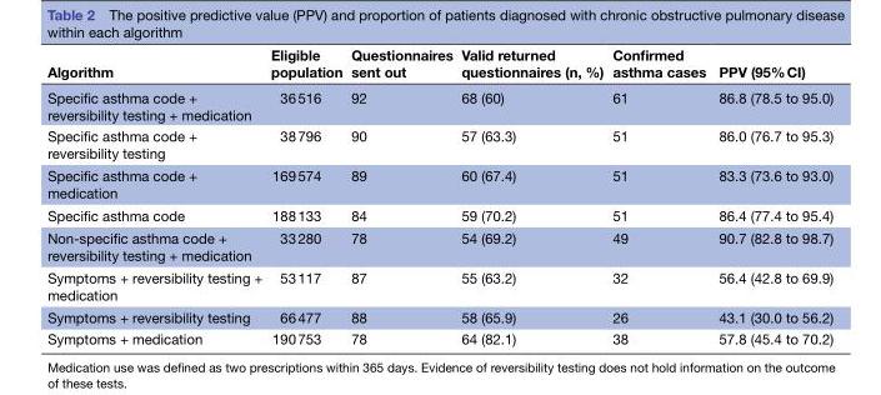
<table><thead><tr><td>Algorithm</td><td>Eligible population</td><td>Questionnaires sent out</td><td>Valid returned questionnaires (n, %)</td><td>Confirmed asthma cases</td><td>PPV (95% CI)</td></tr></thead><tbody><tr><td>Specific asthma code + reversibility testing + medication</td><td>36 516</td><td>92</td><td>68 (60)</td><td>61</td><td>86.8 (78.5 to 95.0)</td></tr><tr><td>Specific asthma code + reversibility testing</td><td>38 796</td><td>90</td><td>57 (63.3)</td><td>51</td><td>86.0 (76.7 to 95.3)</td></tr><tr><td>Specific asthma code + medication</td><td>169 574</td><td>89</td><td>60 (67.4)</td><td>51</td><td>83.3 (73.6 to 93.0)</td></tr><tr><td>Specific asthma code</td><td>188 133</td><td>84</td><td>59 (70.2)</td><td>51</td><td>86.4 (77.4 to 95.4)</td></tr><tr><td>Non-specific asthma code + reversibility testing + medication</td><td>33 280</td><td>78</td><td>54 (69.2)</td><td>49</td><td>90.7 (82.8 to 98.7)</td></tr><tr><td>Symptoms + reversibility testing + medication</td><td>53 117</td><td>87</td><td>55 (63.2)</td><td>32</td><td>56.4 (42.8 to 69.9)</td></tr><tr><td>Symptoms + reversibility testing</td><td>66 477</td><td>88</td><td>58 (65.9)</td><td>26</td><td>43.1 (30.0 to 56.2)</td></tr><tr><td>Symptoms + medication</td><td>190 753</td><td>78</td><td>64 (82.1)</td><td>38</td><td>57.8 (45.4 to 70.2)</td></tr></tbody></table>